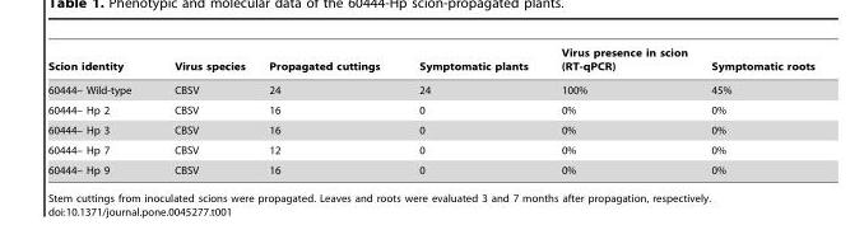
<table><thead><tr><td>Scion identity</td><td>Virus species</td><td>Propagated cuttings</td><td>Symptomatic plants</td><td>Virus presence in scion (RT-qPCR)</td><td>Symptomatic roots</td></tr></thead><tbody><tr><td>60444– Wild-type</td><td>CBSV</td><td>24</td><td>24</td><td>100%</td><td>45%</td></tr><tr><td>60444– Hp 2</td><td>CBSV</td><td>16</td><td>0</td><td>0%</td><td>0%</td></tr><tr><td>60444– Hp 3</td><td>CBSV</td><td>16</td><td>0</td><td>0%</td><td>0%</td></tr><tr><td>60444– Hp 7</td><td>CBSV</td><td>12</td><td>0</td><td>0%</td><td>0%</td></tr><tr><td>60444– Hp 9</td><td>CBSV</td><td>16</td><td>0</td><td>0%</td><td>0%</td></tr></tbody></table>